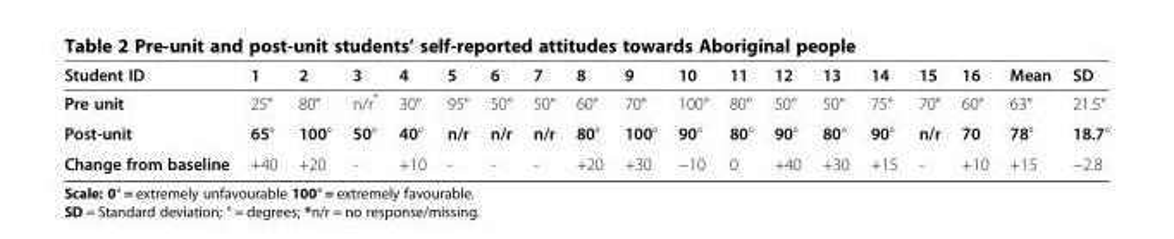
<table><thead><tr><td>Student ID</td><td>1</td><td>2</td><td>3</td><td>4</td><td>5</td><td>6</td><td>7</td><td>8</td><td>9</td><td>10</td><td>11</td><td>12</td><td>13</td><td>14</td><td>15</td><td>16</td><td>Mean</td><td>SD</td></tr></thead><tbody><tr><td>Pre unit</td><td>25°</td><td>80°</td><td>n/r*</td><td>30°</td><td>95°</td><td>50°</td><td>50°</td><td>60°</td><td>70°</td><td>100°</td><td>80°</td><td>50°</td><td>50°</td><td>75°</td><td>70°</td><td>60°</td><td>63°</td><td>21.5°</td></tr><tr><td>Post-unit</td><td>65°</td><td>100°</td><td>50°</td><td>40°</td><td>n/r</td><td>n/r</td><td>n/r</td><td>80°</td><td>100°</td><td>90°</td><td>80°</td><td>90°</td><td>80°</td><td>90°</td><td>n/r</td><td>70</td><td>78°</td><td>18.7°</td></tr><tr><td>Change from baseline</td><td>+40</td><td>+20</td><td>-</td><td>+10</td><td>-</td><td>-</td><td>-</td><td>+20</td><td>+30</td><td>−10</td><td>0</td><td>+40</td><td>+30</td><td>+15</td><td>-</td><td>+10</td><td>+15</td><td>−2.8</td></tr></tbody></table>